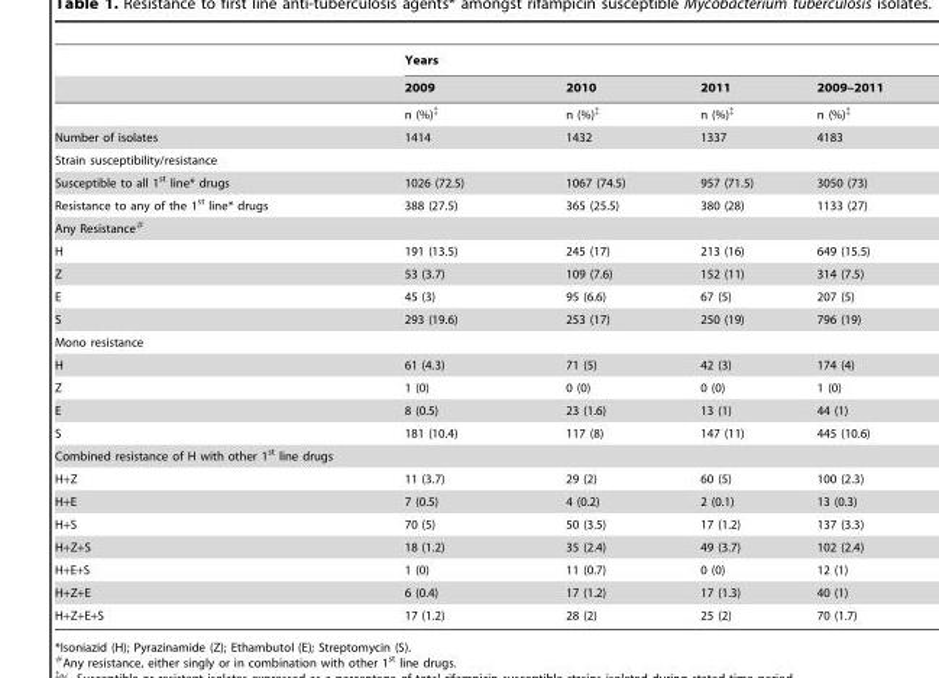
<table><thead><tr><td rowspan="2"></td><td colspan="4">Years</td></tr><tr><td>2009</td><td>2010</td><td>2011</td><td>2009–2011</td></tr></thead><tbody><tr><td></td><td>n (%)‡</td><td>n (%)‡</td><td>n (%)‡</td><td>n (%)‡</td></tr><tr><td>Number of isolates</td><td>1414</td><td>1432</td><td>1337</td><td>4183</td></tr><tr><td colspan="5">Strain susceptibility/resistance</td></tr><tr><td>Susceptible to all 1<sup>st</sup> line* drugs</td><td>1026 (72.5)</td><td>1067 (74.5)</td><td>957 (71.5)</td><td>3050 (73)</td></tr><tr><td>Resistance to any of the 1<sup>st</sup> line* drugs</td><td>388 (27.5)</td><td>365 (25.5)</td><td>380 (28)</td><td>1133 (27)</td></tr><tr><td colspan="5">Any Resistance#</td></tr><tr><td>H</td><td>191 (13.5)</td><td>245 (17)</td><td>213 (16)</td><td>649 (15.5)</td></tr><tr><td>Z</td><td>53 (3.7)</td><td>109 (7.6)</td><td>152 (11)</td><td>314 (7.5)</td></tr><tr><td>E</td><td>45 (3)</td><td>95 (6.6)</td><td>67 (5)</td><td>207 (5)</td></tr><tr><td>S</td><td>293 (19.6)</td><td>253 (17)</td><td>250 (19)</td><td>796 (19)</td></tr><tr><td colspan="5">Mono resistance</td></tr><tr><td>H</td><td>61 (4.3)</td><td>71 (5)</td><td>42 (3)</td><td>174 (4)</td></tr><tr><td>Z</td><td>1 (0)</td><td>0 (0)</td><td>0 (0)</td><td>1 (0)</td></tr><tr><td>E</td><td>8 (0.5)</td><td>23 (1.6)</td><td>13 (1)</td><td>44 (1)</td></tr><tr><td>S</td><td>181 (10.4)</td><td>117 (8)</td><td>147 (11)</td><td>445 (10.6)</td></tr><tr><td colspan="5">Combined resistance of H with other 1<sup>st</sup> line drugs</td></tr><tr><td>H+Z</td><td>11 (3.7)</td><td>29 (2)</td><td>60 (5)</td><td>100 (2.3)</td></tr><tr><td>H+E</td><td>7 (0.5)</td><td>4 (0.2)</td><td>2 (0.1)</td><td>13 (0.3)</td></tr><tr><td>H+S</td><td>70 (5)</td><td>50 (3.5)</td><td>17 (1.2)</td><td>137 (3.3)</td></tr><tr><td>H+Z+S</td><td>18 (1.2)</td><td>35 (2.4)</td><td>49 (3.7)</td><td>102 (2.4)</td></tr><tr><td>H+E+S</td><td>1 (0)</td><td>11 (0.7)</td><td>0 (0)</td><td>12 (1)</td></tr><tr><td>H+Z+E</td><td>6 (0.4)</td><td>17 (1.2)</td><td>17 (1.3)</td><td>40 (1)</td></tr><tr><td>H+Z+E+S</td><td>17 (1.2)</td><td>28 (2)</td><td>25 (2)</td><td>70 (1.7)</td></tr></tbody></table>